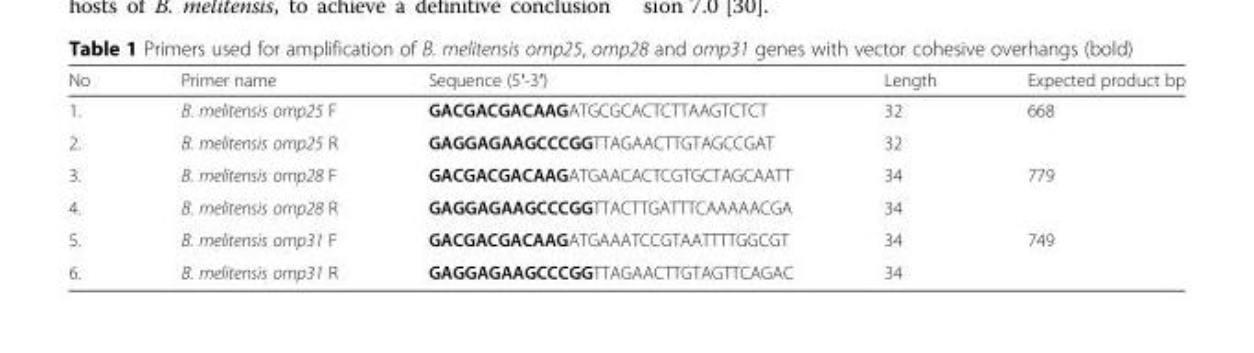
<table><thead><tr><td>No</td><td>Primer name</td><td>Sequence (5′-3′)</td><td>Length</td><td>Expected product bp</td></tr></thead><tbody><tr><td>1.</td><td>B. melitensis omp25 F</td><td>GACGACGACAAGATGCGCACTCTTAAGTCTCT</td><td>32</td><td rowspan="2">668</td></tr><tr><td>2.</td><td>B. melitensis omp25 R</td><td>GAGGAGAAGCCCGGTTAGAACTTGTAGCCGAT</td><td>32</td></tr><tr><td>3.</td><td>B. melitensis omp28 F</td><td>GACGACGACAAGATGAACACTCGTGCTAGCAATT</td><td>34</td><td rowspan="2">779</td></tr><tr><td>4.</td><td>B. melitensis omp28 R</td><td>GAGGAGAAGCCCGGTTACTTGATTTCAAAAACGA</td><td>34</td></tr><tr><td>5.</td><td>B. melitensis omp31 F</td><td>GACGACGACAAGATGAAATCCGTAATTTTGGCGT</td><td>34</td><td rowspan="2">749</td></tr><tr><td>6.</td><td>B. melitensis omp31 R</td><td>GAGGAGAAGCCCGGTTAGAACTTGTAGTTCAGAC</td><td>34</td></tr></tbody></table>